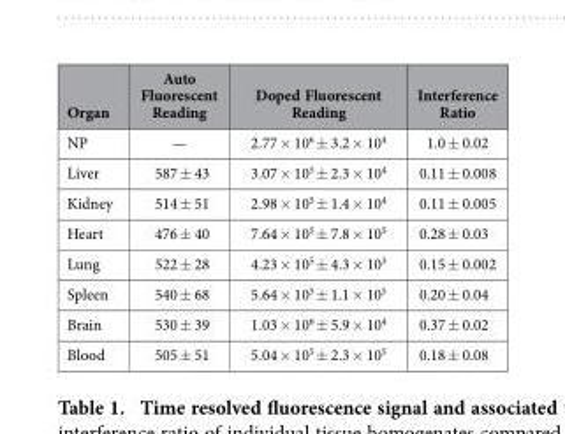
<table><thead><tr><td>Organ</td><td>Auto Fluorescent Reading</td><td>Doped Fluorescent Reading</td><td>Interference Ratio</td></tr></thead><tbody><tr><td>NP</td><td>—</td><td>2.77 × 10<sup>6</sup> ± 3.2 × 10<sup>4</sup></td><td>1.0 ± 0.02</td></tr><tr><td>Liver</td><td>587 ± 43</td><td>3.07 × 10<sup>5</sup> ± 2.3 × 10<sup>4</sup></td><td>0.11 ± 0.008</td></tr><tr><td>Kidney</td><td>514 ± 51</td><td>2.98 × 10<sup>5</sup> ± 1.4 × 10<sup>4</sup></td><td>0.11 ± 0.005</td></tr><tr><td>Heart</td><td>476 ± 40</td><td>7.64 × 10<sup>5</sup> ± 7.8 × 10<sup>5</sup></td><td>0.28 ± 0.03</td></tr><tr><td>Lung</td><td>522 ± 28</td><td>4.23 × 10<sup>5</sup> ± 4.3 × 10<sup>3</sup></td><td>0.15 ± 0.002</td></tr><tr><td>Spleen</td><td>540 ± 68</td><td>5.64 × 10<sup>5</sup> ± 1.1 × 10<sup>5</sup></td><td>0.20 ± 0.04</td></tr><tr><td>Brain</td><td>530 ± 39</td><td>1.03 × 10<sup>6</sup> ± 5.9 × 10<sup>4</sup></td><td>0.37 ± 0.02</td></tr><tr><td>Blood</td><td>505 ± 51</td><td>5.04 × 10<sup>5</sup> ± 2.3 × 10<sup>5</sup></td><td>0.18 ± 0.08</td></tr></tbody></table>